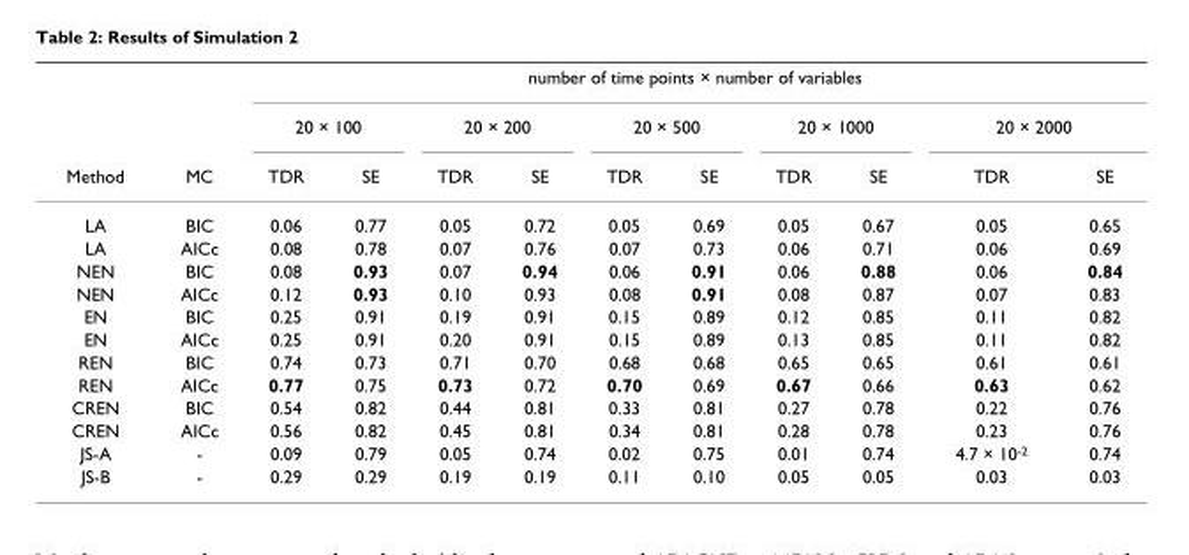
<table><thead><tr><td rowspan="3">Method</td><td rowspan="3">MC</td><td colspan="10">number of time points × number of variables</td></tr><tr><td colspan="2">20 × 100</td><td colspan="2">20 × 200</td><td colspan="2">20 × 500</td><td colspan="2">20 × 1000</td><td colspan="2">20 × 2000</td></tr><tr><td>TDR</td><td>SE</td><td>TDR</td><td>SE</td><td>TDR</td><td>SE</td><td>TDR</td><td>SE</td><td>TDR</td><td>SE</td></tr></thead><tbody><tr><td>LA</td><td>BIC</td><td>0.06</td><td>0.77</td><td>0.05</td><td>0.72</td><td>0.05</td><td>0.69</td><td>0.05</td><td>0.67</td><td>0.05</td><td>0.65</td></tr><tr><td>LA</td><td>AICc</td><td>0.08</td><td>0.78</td><td>0.07</td><td>0.76</td><td>0.07</td><td>0.73</td><td>0.06</td><td>0.71</td><td>0.06</td><td>0.69</td></tr><tr><td>NEN</td><td>BIC</td><td>0.08</td><td>0.93</td><td>0.07</td><td>0.94</td><td>0.06</td><td>0.91</td><td>0.06</td><td>0.88</td><td>0.06</td><td>0.84</td></tr><tr><td>NEN</td><td>AICc</td><td>0.12</td><td>0.93</td><td>0.10</td><td>0.93</td><td>0.08</td><td>0.91</td><td>0.08</td><td>0.87</td><td>0.07</td><td>0.83</td></tr><tr><td>EN</td><td>BIC</td><td>0.25</td><td>0.91</td><td>0.19</td><td>0.91</td><td>0.15</td><td>0.89</td><td>0.12</td><td>0.85</td><td>0.11</td><td>0.82</td></tr><tr><td>EN</td><td>AICc</td><td>0.25</td><td>0.91</td><td>0.20</td><td>0.91</td><td>0.15</td><td>0.89</td><td>0.13</td><td>0.85</td><td>0.11</td><td>0.82</td></tr><tr><td>REN</td><td>BIC</td><td>0.74</td><td>0.73</td><td>0.71</td><td>0.70</td><td>0.68</td><td>0.68</td><td>0.65</td><td>0.65</td><td>0.61</td><td>0.61</td></tr><tr><td>REN</td><td>AICc</td><td>0.77</td><td>0.75</td><td>0.73</td><td>0.72</td><td>0.70</td><td>0.69</td><td>0.67</td><td>0.66</td><td>0.63</td><td>0.62</td></tr><tr><td>CREN</td><td>BIC</td><td>0.54</td><td>0.82</td><td>0.44</td><td>0.81</td><td>0.33</td><td>0.81</td><td>0.27</td><td>0.78</td><td>0.22</td><td>0.76</td></tr><tr><td>CREN</td><td>AICc</td><td>0.56</td><td>0.82</td><td>0.45</td><td>0.81</td><td>0.34</td><td>0.81</td><td>0.28</td><td>0.78</td><td>0.23</td><td>0.76</td></tr><tr><td>JS-A</td><td>-</td><td>0.09</td><td>0.79</td><td>0.05</td><td>0.74</td><td>0.02</td><td>0.75</td><td>0.01</td><td>0.74</td><td>4.7 × 10<sup>-2</sup></td><td>0.74</td></tr><tr><td>JS-B</td><td>-</td><td>0.29</td><td>0.29</td><td>0.19</td><td>0.19</td><td>0.11</td><td>0.10</td><td>0.05</td><td>0.05</td><td>0.03</td><td>0.03</td></tr></tbody></table>